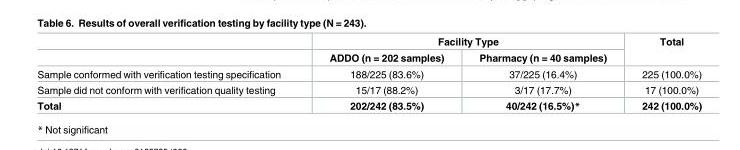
<table><thead><tr><td rowspan="2"></td><td colspan="2">Facility Type</td><td rowspan="2">Total</td></tr><tr><td>ADDO (n = 202 samples)</td><td>Pharmacy (n = 40 samples)</td></tr></thead><tbody><tr><td>Sample conformed with verification testing specification</td><td>188/225 (83.6%)</td><td>37/225 (16.4%)</td><td>225 (100.0%)</td></tr><tr><td>Sample did not conform with verification quality testing</td><td>15/17 (88.2%)</td><td>3/17 (17.7%)</td><td>17 (100.0%)</td></tr><tr><td>Total</td><td>202/242 (83.5%)</td><td>40/242 (16.5%)*</td><td>242 (100.0%)</td></tr></tbody></table>